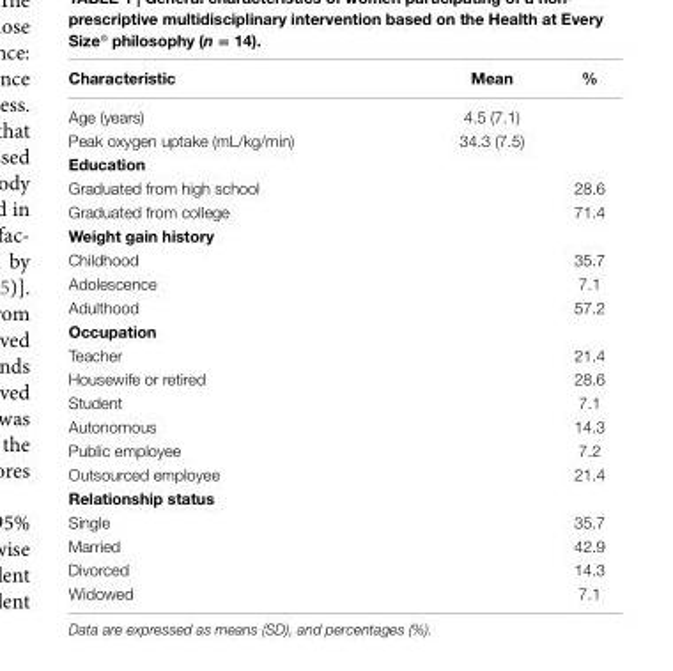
<table><thead><tr><td>characteristic</td><td>Mean</td><td>%</td></tr></thead><tbody><tr><td>Age (years)</td><td>4.5 (7.1)</td><td></td></tr><tr><td>Peak oxygen uptake (mL/kg/min)</td><td>34.3 (7.5)</td><td></td></tr><tr><td colspan="3">education</td></tr><tr><td>Graduated from high school</td><td></td><td>28.6</td></tr><tr><td>Graduated from college</td><td></td><td>71.4</td></tr><tr><td colspan="3">Weight gain history</td></tr><tr><td>Childhood</td><td></td><td>35.7</td></tr><tr><td>Adolescence</td><td></td><td>7.1</td></tr><tr><td>Adulthood</td><td></td><td>57.2</td></tr><tr><td colspan="3">Occupation</td></tr><tr><td>Teacher</td><td></td><td>21.4</td></tr><tr><td>Housewife or retired</td><td></td><td>28.6</td></tr><tr><td>Student</td><td></td><td>7.1</td></tr><tr><td>Autonomous</td><td></td><td>14.3</td></tr><tr><td>Public employee</td><td></td><td>7.2</td></tr><tr><td>Outsourced employee</td><td></td><td>21.4</td></tr><tr><td colspan="3">relationship status</td></tr><tr><td>Single</td><td></td><td>35.7</td></tr><tr><td>Married</td><td></td><td>42.9</td></tr><tr><td>Divorced</td><td></td><td>14.3</td></tr><tr><td>Widowed</td><td></td><td>7.1</td></tr></tbody></table>